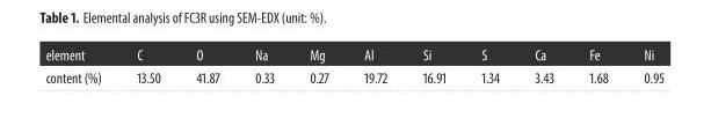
<table><thead><tr><td>element</td><td>C</td><td>O</td><td>Na</td><td>Mg</td><td>Al</td><td>Si</td><td>S</td><td>Ca</td><td>Fe</td><td>Ni</td></tr></thead><tbody><tr><td>content (%)</td><td>13.50</td><td>41.87</td><td>0.33</td><td>0.27</td><td>19.72</td><td>16.91</td><td>1.34</td><td>3.43</td><td>1.68</td><td>0.95</td></tr></tbody></table>